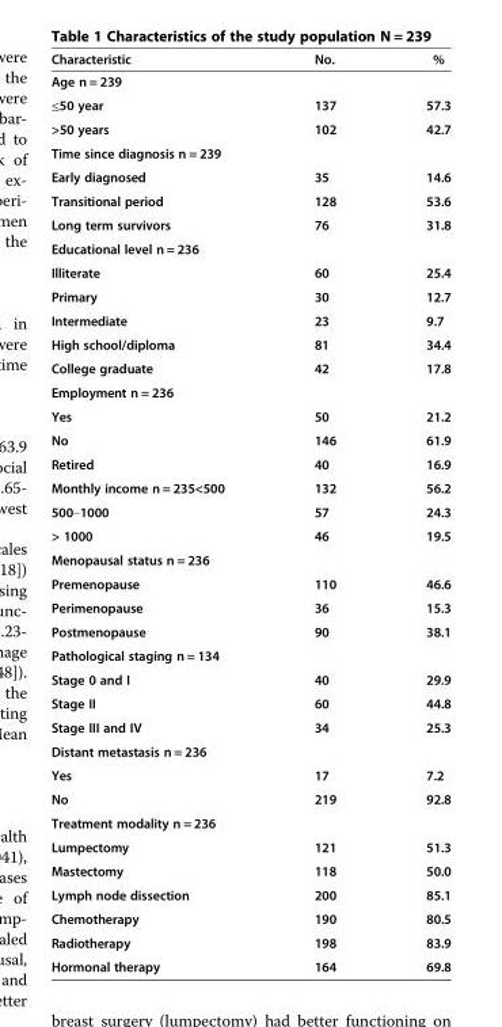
<table><thead><tr><td>Characteristic</td><td>No.</td><td>%</td></tr></thead><tbody><tr><td colspan="3">Age n = 239</td></tr><tr><td>≤50 year</td><td>137</td><td>57.3</td></tr><tr><td>&gt;50 years</td><td>102</td><td>42.7</td></tr><tr><td colspan="3">Time since diagnosis n = 239</td></tr><tr><td>Early diagnosed</td><td>35</td><td>14.6</td></tr><tr><td>Transitional period</td><td>128</td><td>53.6</td></tr><tr><td>Long term survivors</td><td>76</td><td>31.8</td></tr><tr><td colspan="3">Educational level n = 236</td></tr><tr><td>Illiterate</td><td>60</td><td>25.4</td></tr><tr><td>Primary</td><td>30</td><td>12.7</td></tr><tr><td>Intermediate</td><td>23</td><td>9.7</td></tr><tr><td>High school/diploma</td><td>81</td><td>34.4</td></tr><tr><td>College graduate</td><td>42</td><td>17.8</td></tr><tr><td colspan="3">Employment n = 236</td></tr><tr><td>Yes</td><td>50</td><td>21.2</td></tr><tr><td>No</td><td>146</td><td>61.9</td></tr><tr><td>Retired</td><td>40</td><td>16.9</td></tr><tr><td>Monthly income n = 235&lt;500</td><td>132</td><td>56.2</td></tr><tr><td>500–1000</td><td>57</td><td>24.3</td></tr><tr><td>&gt; 1000</td><td>46</td><td>19.5</td></tr><tr><td colspan="3">Menopausal status n = 236</td></tr><tr><td>Premenopause</td><td>110</td><td>46.6</td></tr><tr><td>Perimenopause</td><td>36</td><td>15.3</td></tr><tr><td>Postmenopause</td><td>90</td><td>38.1</td></tr><tr><td colspan="3">Pathological staging n = 134</td></tr><tr><td>Stage 0 and I</td><td>40</td><td>29.9</td></tr><tr><td>Stage II</td><td>60</td><td>44.8</td></tr><tr><td>Stage III and IV</td><td>34</td><td>25.3</td></tr><tr><td colspan="3">Distant metastasis n = 236</td></tr><tr><td>Yes</td><td>17</td><td>7.2</td></tr><tr><td>No</td><td>219</td><td>92.8</td></tr><tr><td colspan="3">Treatment modality n = 236</td></tr><tr><td>Lumpectomy</td><td>121</td><td>51.3</td></tr><tr><td>Mastectomy</td><td>118</td><td>50.0</td></tr><tr><td>Lymph node dissection</td><td>200</td><td>85.1</td></tr><tr><td>Chemotherapy</td><td>190</td><td>80.5</td></tr><tr><td>Radiotherapy</td><td>198</td><td>83.9</td></tr><tr><td>Hormonal therapy</td><td>164</td><td>69.8</td></tr></tbody></table>